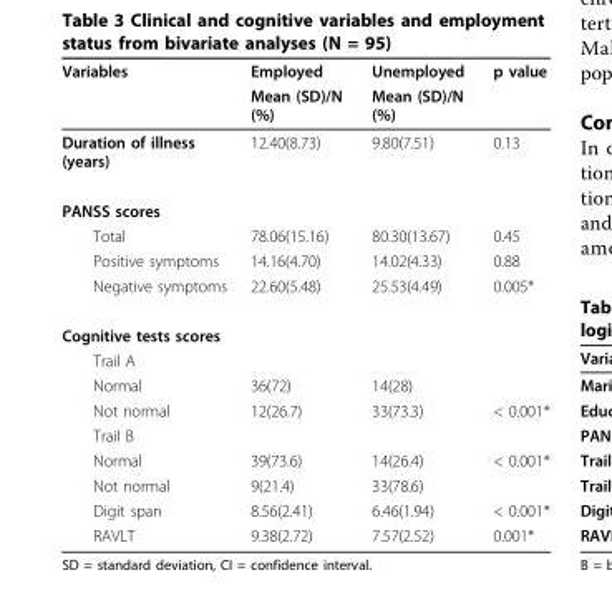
<table><thead><tr><td rowspan="2">Variables</td><td rowspan="2">Employed Mean (SD)/N (%)</td><td rowspan="2">Unemployed Mean (SD)/N (%)</td><td rowspan="2">p value</td></tr><tr></tr></thead><tbody><tr><td>Duration of illness (years)</td><td>12.40(8.73)</td><td>9.80(7.51)</td><td>0.13</td></tr><tr><td colspan="4">PANSS scores</td></tr><tr><td>Total</td><td>78.06(15.16)</td><td>80.30(13.67)</td><td>0.45</td></tr><tr><td>Positive symptoms</td><td>14.16(4.70)</td><td>14.02(4.33)</td><td>0.88</td></tr><tr><td>Negative symptoms</td><td>22.60(5.48)</td><td>25.53(4.49)</td><td>0.005*</td></tr><tr><td colspan="4">Cognitive tests scores</td></tr><tr><td colspan="4">Trail A</td></tr><tr><td>Normal</td><td>36(72)</td><td>14(28)</td><td></td></tr><tr><td>Not normal</td><td>12(26.7)</td><td>33(73.3)</td><td>&lt; 0.001*</td></tr><tr><td colspan="4">Trail B</td></tr><tr><td>Normal</td><td>39(73.6)</td><td>14(26.4)</td><td>&lt; 0.001*</td></tr><tr><td>Not normal</td><td>9(21.4)</td><td>33(78.6)</td><td></td></tr><tr><td>Digit span</td><td>8.56(2.41)</td><td>6.46(1.94)</td><td>&lt; 0.001*</td></tr><tr><td>RAVLT</td><td>9.38(2.72)</td><td>7.57(2.52)</td><td>0.001*</td></tr></tbody></table>